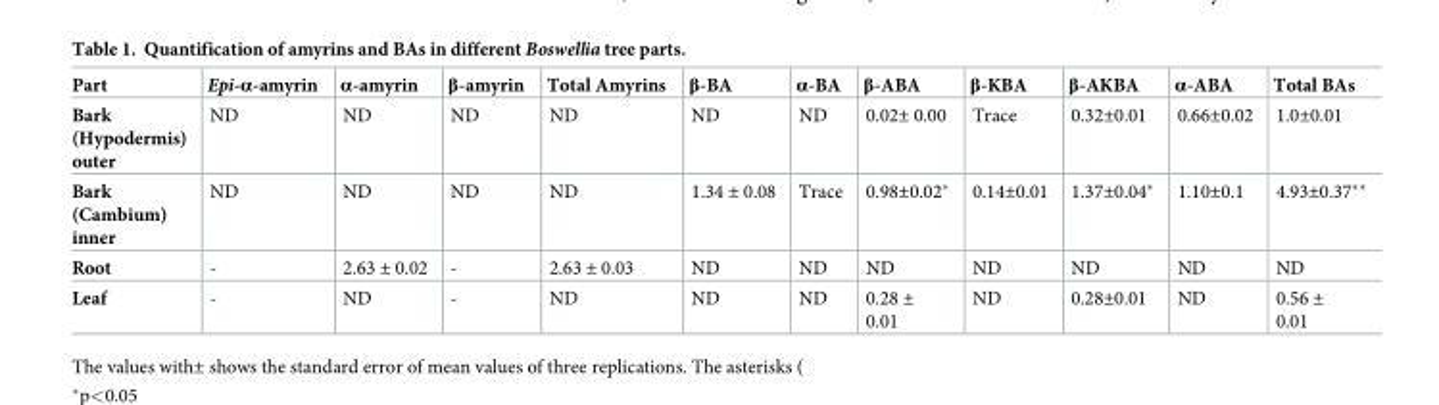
<table><thead><tr><td>Part</td><td>Epi-α-amyrin</td><td>α-amyrin</td><td>β-amyrin</td><td>Total Amyrins</td><td>β-BA</td><td>α-BA</td><td>β-ABA</td><td>β-KBA</td><td>β-AKBA</td><td>α-ABA</td><td>Total BAs</td></tr></thead><tbody><tr><td>Bark (Hypodermis) outer</td><td>ND</td><td>ND</td><td>ND</td><td>ND</td><td>ND</td><td>ND</td><td>0.02± 0.00</td><td>Trace</td><td>0.32±0.01</td><td>0.66±0.02</td><td>1.0±0.01</td></tr><tr><td>Bark (Cambium) inner</td><td>ND</td><td>ND</td><td>ND</td><td>ND</td><td>1.34 ± 0.08</td><td>Trace</td><td>0.98±0.02*</td><td>0.14±0.01</td><td>1.37±0.04*</td><td>1.10±0.1</td><td>4.93±0.37**</td></tr><tr><td>Root</td><td>-</td><td>2.63 ± 0.02</td><td>-</td><td>2.63 ± 0.03</td><td>ND</td><td>ND</td><td>ND</td><td>ND</td><td>ND</td><td>ND</td><td>ND</td></tr><tr><td>Leaf</td><td>-</td><td>ND</td><td>-</td><td>ND</td><td>ND</td><td>ND</td><td>0.28 ± 0.01</td><td>ND</td><td>0.28±0.01</td><td>ND</td><td>0.56 ± 0.01</td></tr></tbody></table>